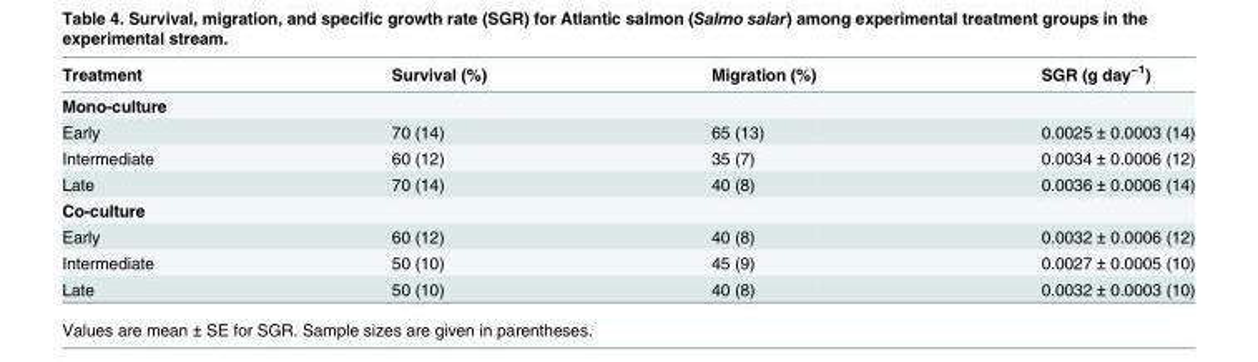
<table><thead><tr><td>Treatment</td><td>Survival (%)</td><td>Migration (%)</td><td>SGR (g day<sup>−1</sup>)</td></tr></thead><tbody><tr><td colspan="4">Mono-culture</td></tr><tr><td>Early</td><td>70 (14)</td><td>65 (13)</td><td>0.0025 ± 0.0003 (14)</td></tr><tr><td>Intermediate</td><td>60 (12)</td><td>35 (7)</td><td>0.0034 ± 0.0006 (12)</td></tr><tr><td>Late</td><td>70 (14)</td><td>40 (8)</td><td>0.0036 ± 0.0006 (14)</td></tr><tr><td colspan="4">Co-culture</td></tr><tr><td>Early</td><td>60 (12)</td><td>40 (8)</td><td>0.0032 ± 0.0006 (12)</td></tr><tr><td>Intermediate</td><td>50 (10)</td><td>45 (9)</td><td>0.0027 ± 0.0005 (10)</td></tr><tr><td>Late</td><td>50 (10)</td><td>40 (8)</td><td>0.0032 ± 0.0003 (10)</td></tr></tbody></table>